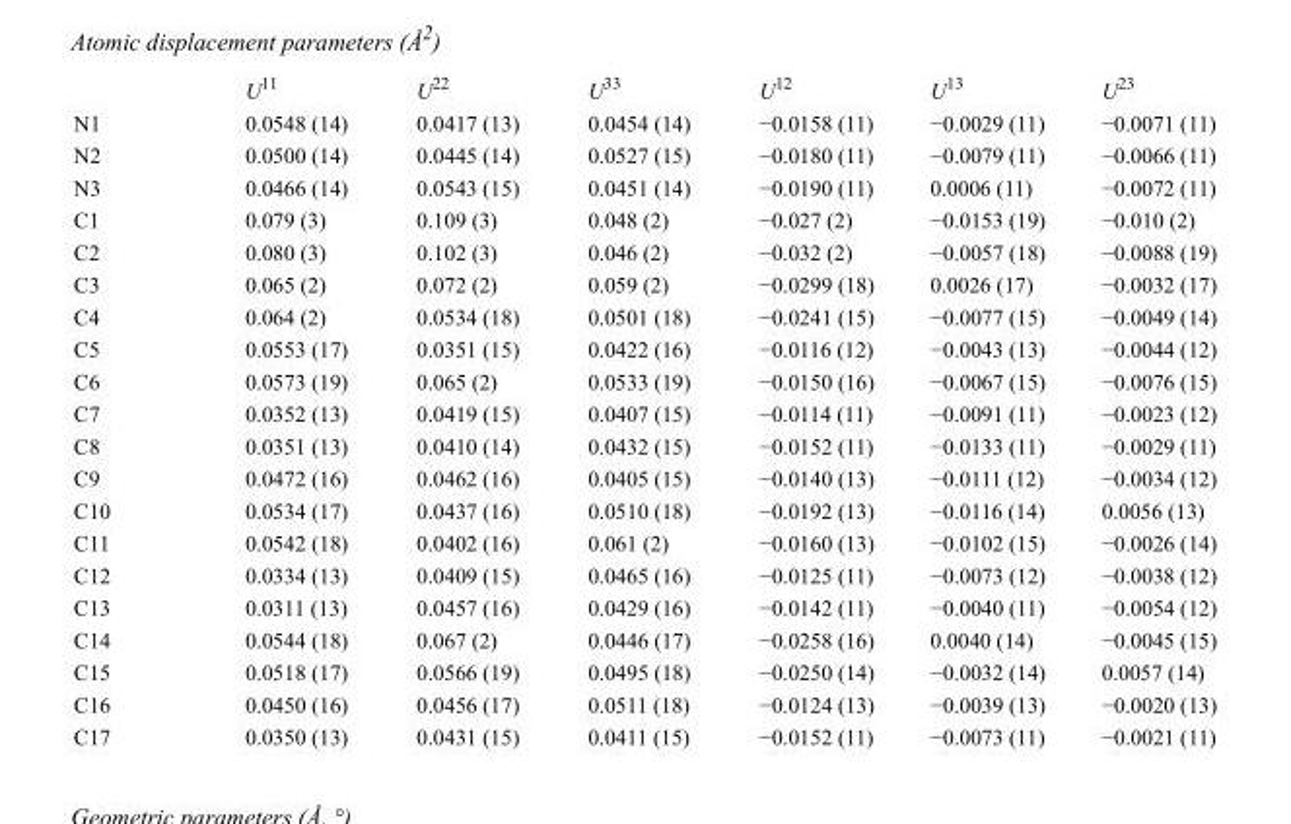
<table><thead><tr><td></td><td>U<sup>11</sup></td><td>U<sup>22</sup></td><td>U<sup>33</sup></td><td>U<sup>12</sup></td><td>U<sup>13</sup></td><td>U<sup>23</sup></td></tr></thead><tbody><tr><td>N1</td><td>0.0548 (14)</td><td>0.0417 (13)</td><td>0.0454 (14)</td><td>−0.0158 (11)</td><td>−0.0029 (11)</td><td>−0.0071 (11)</td></tr><tr><td>N2</td><td>0.0500 (14)</td><td>0.0445 (14)</td><td>0.0527 (15)</td><td>−0.0180 (11)</td><td>−0.0079 (11)</td><td>−0.0066 (11)</td></tr><tr><td>N3</td><td>0.0466 (14)</td><td>0.0543 (15)</td><td>0.0451 (14)</td><td>−0.0190 (11)</td><td>0.0006 (11)</td><td>−0.0072 (11)</td></tr><tr><td>C1</td><td>0.079 (3)</td><td>0.109 (3)</td><td>0.048 (2)</td><td>−0.027 (2)</td><td>−0.0153 (19)</td><td>−0.010 (2)</td></tr><tr><td>C2</td><td>0.080 (3)</td><td>0.102 (3)</td><td>0.046 (2)</td><td>−0.032 (2)</td><td>−0.0057 (18)</td><td>−0.0088 (19)</td></tr><tr><td>C3</td><td>0.065 (2)</td><td>0.072 (2)</td><td>0.059 (2)</td><td>−0.0299 (18)</td><td>0.0026 (17)</td><td>−0.0032 (17)</td></tr><tr><td>C4</td><td>0.064 (2)</td><td>0.0534 (18)</td><td>0.0501 (18)</td><td>−0.0241 (15)</td><td>−0.0077 (15)</td><td>−0.0049 (14)</td></tr><tr><td>C5</td><td>0.0553 (17)</td><td>0.0351 (15)</td><td>0.0422 (16)</td><td>−0.0116 (12)</td><td>−0.0043 (13)</td><td>−0.0044 (12)</td></tr><tr><td>C6</td><td>0.0573 (19)</td><td>0.065 (2)</td><td>0.0533 (19)</td><td>−0.0150 (16)</td><td>−0.0067 (15)</td><td>−0.0076 (15)</td></tr><tr><td>C7</td><td>0.0352 (13)</td><td>0.0419 (15)</td><td>0.0407 (15)</td><td>−0.0114 (11)</td><td>−0.0091 (11)</td><td>−0.0023 (12)</td></tr><tr><td>C8</td><td>0.0351 (13)</td><td>0.0410 (14)</td><td>0.0432 (15)</td><td>−0.0152 (11)</td><td>−0.0133 (11)</td><td>−0.0029 (11)</td></tr><tr><td>C9</td><td>0.0472 (16)</td><td>0.0462 (16)</td><td>0.0405 (15)</td><td>−0.0140 (13)</td><td>−0.0111 (12)</td><td>−0.0034 (12)</td></tr><tr><td>C10</td><td>0.0534 (17)</td><td>0.0437 (16)</td><td>0.0510 (18)</td><td>−0.0192 (13)</td><td>−0.0116 (14)</td><td>0.0056 (13)</td></tr><tr><td>C11</td><td>0.0542 (18)</td><td>0.0402 (16)</td><td>0.061 (2)</td><td>−0.0160 (13)</td><td>−0.0102 (15)</td><td>−0.0026 (14)</td></tr><tr><td>C12</td><td>0.0334 (13)</td><td>0.0409 (15)</td><td>0.0465 (16)</td><td>−0.0125 (11)</td><td>−0.0073 (12)</td><td>−0.0038 (12)</td></tr><tr><td>C13</td><td>0.0311 (13)</td><td>0.0457 (16)</td><td>0.0429 (16)</td><td>−0.0142 (11)</td><td>−0.0040 (11)</td><td>−0.0054 (12)</td></tr><tr><td>C14</td><td>0.0544 (18)</td><td>0.067 (2)</td><td>0.0446 (17)</td><td>−0.0258 (16)</td><td>0.0040 (14)</td><td>−0.0045 (15)</td></tr><tr><td>C15</td><td>0.0518 (17)</td><td>0.0566 (19)</td><td>0.0495 (18)</td><td>−0.0250 (14)</td><td>−0.0032 (14)</td><td>0.0057 (14)</td></tr><tr><td>C16</td><td>0.0450 (16)</td><td>0.0456 (17)</td><td>0.0511 (18)</td><td>−0.0124 (13)</td><td>−0.0039 (13)</td><td>−0.0020 (13)</td></tr><tr><td>C17</td><td>0.0350 (13)</td><td>0.0431 (15)</td><td>0.0411 (15)</td><td>−0.0152 (11)</td><td>−0.0073 (11)</td><td>−0.0021 (11)</td></tr></tbody></table>